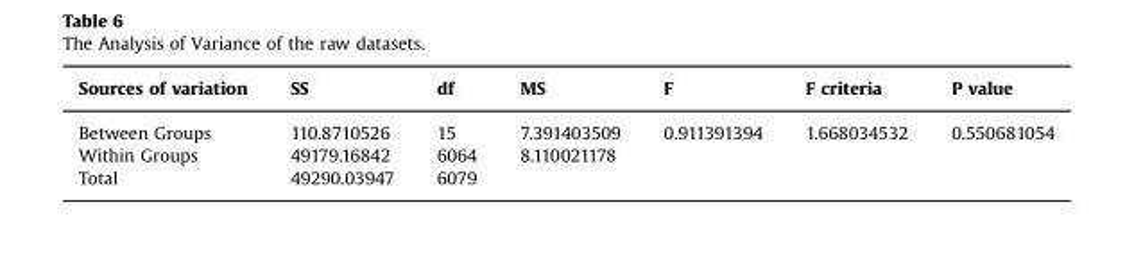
<table><thead><tr><td>Sources of variation</td><td>SS</td><td>df</td><td>MS</td><td>F</td><td>F criteria</td><td>P value</td></tr></thead><tbody><tr><td>Between Groups</td><td>110.8710526</td><td>15</td><td>7.391403509</td><td>0.911391394</td><td>1.668034532</td><td>0.550681054</td></tr><tr><td>Within Groups</td><td>49179.16842</td><td>6064</td><td>8.110021178</td><td></td><td></td><td></td></tr><tr><td>Total</td><td>49290.03947</td><td>6079</td><td></td><td></td><td></td><td></td></tr></tbody></table>